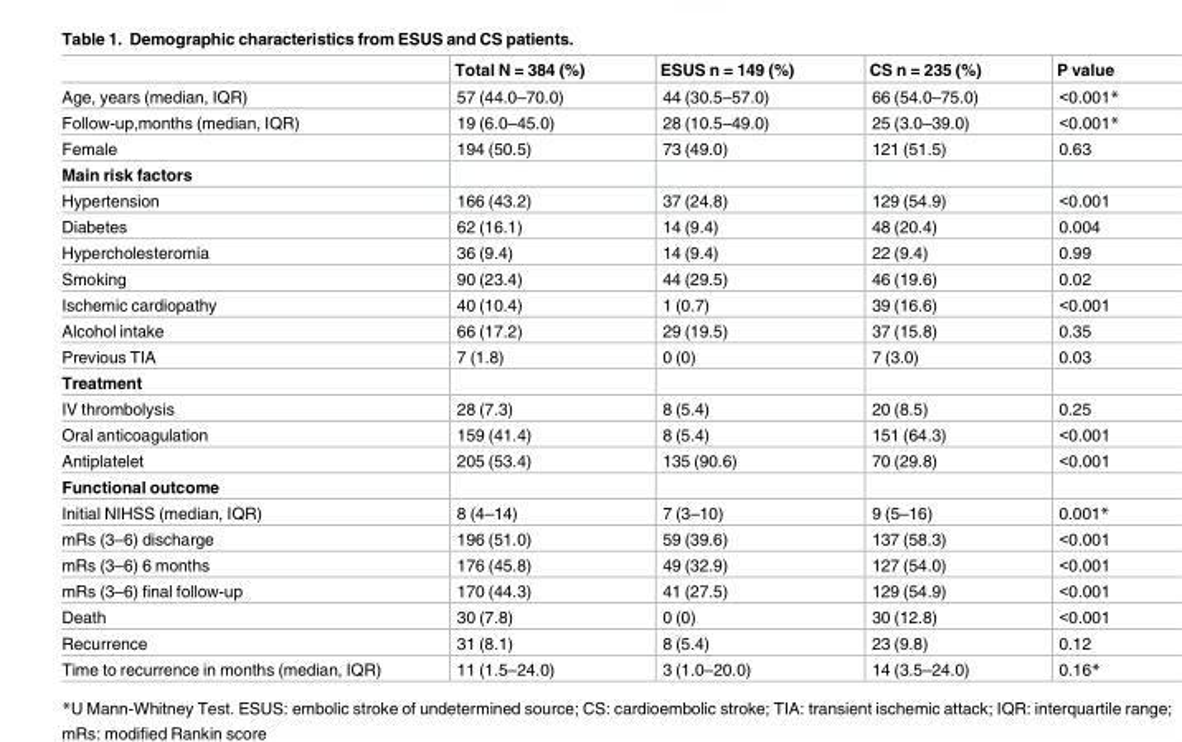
<table><thead><tr><td></td><td>Total N = 384 (%)</td><td>ESUS n = 149 (%)</td><td>CS n = 235 (%)</td><td>P value</td></tr></thead><tbody><tr><td>Age, years (median, IQR)</td><td>57 (44.0–70.0)</td><td>44 (30.5–57.0)</td><td>66 (54.0–75.0)</td><td>&lt;0.001*</td></tr><tr><td>Follow-up,months (median, IQR)</td><td>19 (6.0–45.0)</td><td>28 (10.5–49.0)</td><td>25 (3.0–39.0)</td><td>&lt;0.001*</td></tr><tr><td>Female</td><td>194 (50.5)</td><td>73 (49.0)</td><td>121 (51.5)</td><td>0.63</td></tr><tr><td colspan="5">Main risk factors</td></tr><tr><td>Hypertension</td><td>166 (43.2)</td><td>37 (24.8)</td><td>129 (54.9)</td><td>&lt;0.001</td></tr><tr><td>Diabetes</td><td>62 (16.1)</td><td>14 (9.4)</td><td>48 (20.4)</td><td>0.004</td></tr><tr><td>Hypercholesteromia</td><td>36 (9.4)</td><td>14 (9.4)</td><td>22 (9.4)</td><td>0.99</td></tr><tr><td>Smoking</td><td>90 (23.4)</td><td>44 (29.5)</td><td>46 (19.6)</td><td>0.02</td></tr><tr><td>Ischemic cardiopathy</td><td>40 (10.4)</td><td>1 (0.7)</td><td>39 (16.6)</td><td>&lt;0.001</td></tr><tr><td>Alcohol intake</td><td>66 (17.2)</td><td>29 (19.5)</td><td>37 (15.8)</td><td>0.35</td></tr><tr><td>Previous TIA</td><td>7 (1.8)</td><td>0 (0)</td><td>7 (3.0)</td><td>0.03</td></tr><tr><td colspan="5">Treatment</td></tr><tr><td>IV thrombolysis</td><td>28 (7.3)</td><td>8 (5.4)</td><td>20 (8.5)</td><td>0.25</td></tr><tr><td>Oral anticoagulation</td><td>159 (41.4)</td><td>8 (5.4)</td><td>151 (64.3)</td><td>&lt;0.001</td></tr><tr><td>Antiplatelet</td><td>205 (53.4)</td><td>135 (90.6)</td><td>70 (29.8)</td><td>&lt;0.001</td></tr><tr><td colspan="5">Functional outcome</td></tr><tr><td>Initial NIHSS (median, IQR)</td><td>8 (4–14)</td><td>7 (3–10)</td><td>9 (5–16)</td><td>0.001*</td></tr><tr><td>mRs (3–6) discharge</td><td>196 (51.0)</td><td>59 (39.6)</td><td>137 (58.3)</td><td>&lt;0.001</td></tr><tr><td>mRs (3–6) 6 months</td><td>176 (45.8)</td><td>49 (32.9)</td><td>127 (54.0)</td><td>&lt;0.001</td></tr><tr><td>mRs (3–6) final follow-up</td><td>170 (44.3)</td><td>41 (27.5)</td><td>129 (54.9)</td><td>&lt;0.001</td></tr><tr><td>Death</td><td>30 (7.8)</td><td>0 (0)</td><td>30 (12.8)</td><td>&lt;0.001</td></tr><tr><td>Recurrence</td><td>31 (8.1)</td><td>8 (5.4)</td><td>23 (9.8)</td><td>0.12</td></tr><tr><td>Time to recurrence in months (median, IQR)</td><td>11 (1.5–24.0)</td><td>3 (1.0–20.0)</td><td>14 (3.5–24.0)</td><td>0.16*</td></tr></tbody></table>